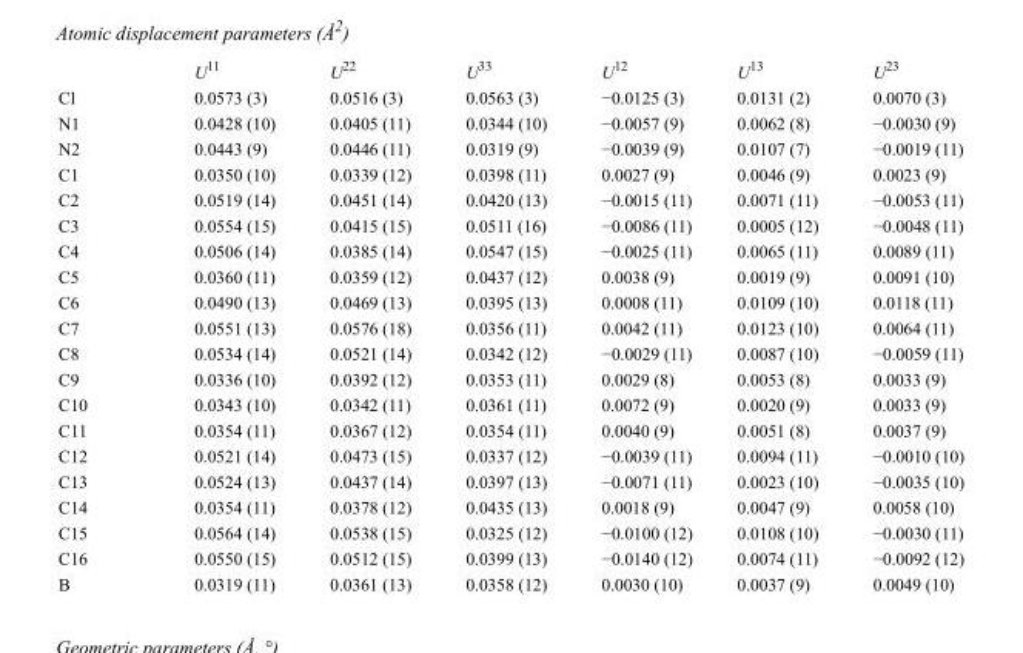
<table><thead><tr><td></td><td>U<sup>11</sup></td><td>U<sup>22</sup></td><td>U<sup>33</sup></td><td>U<sup>12</sup></td><td>U<sup>13</sup></td><td>U<sup>23</sup></td></tr></thead><tbody><tr><td>Cl</td><td>0.0573 (3)</td><td>0.0516 (3)</td><td>0.0563 (3)</td><td>−0.0125 (3)</td><td>0.0131 (2)</td><td>0.0070 (3)</td></tr><tr><td>N1</td><td>0.0428 (10)</td><td>0.0405 (11)</td><td>0.0344 (10)</td><td>−0.0057 (9)</td><td>0.0062 (8)</td><td>−0.0030 (9)</td></tr><tr><td>N2</td><td>0.0443 (9)</td><td>0.0446 (11)</td><td>0.0319 (9)</td><td>−0.0039 (9)</td><td>0.0107 (7)</td><td>−0.0019 (11)</td></tr><tr><td>C1</td><td>0.0350 (10)</td><td>0.0339 (12)</td><td>0.0398 (11)</td><td>0.0027 (9)</td><td>0.0046 (9)</td><td>0.0023 (9)</td></tr><tr><td>C2</td><td>0.0519 (14)</td><td>0.0451 (14)</td><td>0.0420 (13)</td><td>−0.0015 (11)</td><td>0.0071 (11)</td><td>−0.0053 (11)</td></tr><tr><td>C3</td><td>0.0554 (15)</td><td>0.0415 (15)</td><td>0.0511 (16)</td><td>−0.0086 (11)</td><td>0.0005 (12)</td><td>−0.0048 (11)</td></tr><tr><td>C4</td><td>0.0506 (14)</td><td>0.0385 (14)</td><td>0.0547 (15)</td><td>−0.0025 (11)</td><td>0.0065 (11)</td><td>0.0089 (11)</td></tr><tr><td>C5</td><td>0.0360 (11)</td><td>0.0359 (12)</td><td>0.0437 (12)</td><td>0.0038 (9)</td><td>0.0019 (9)</td><td>0.0091 (10)</td></tr><tr><td>C6</td><td>0.0490 (13)</td><td>0.0469 (13)</td><td>0.0395 (13)</td><td>0.0008 (11)</td><td>0.0109 (10)</td><td>0.0118 (11)</td></tr><tr><td>C7</td><td>0.0551 (13)</td><td>0.0576 (18)</td><td>0.0356 (11)</td><td>0.0042 (11)</td><td>0.0123 (10)</td><td>0.0064 (11)</td></tr><tr><td>C8</td><td>0.0534 (14)</td><td>0.0521 (14)</td><td>0.0342 (12)</td><td>−0.0029 (11)</td><td>0.0087 (10)</td><td>−0.0059 (11)</td></tr><tr><td>C9</td><td>0.0336 (10)</td><td>0.0392 (12)</td><td>0.0353 (11)</td><td>0.0029 (8)</td><td>0.0053 (8)</td><td>0.0033 (9)</td></tr><tr><td>C10</td><td>0.0343 (10)</td><td>0.0342 (11)</td><td>0.0361 (11)</td><td>0.0072 (9)</td><td>0.0020 (9)</td><td>0.0033 (9)</td></tr><tr><td>C11</td><td>0.0354 (11)</td><td>0.0367 (12)</td><td>0.0354 (11)</td><td>0.0040 (9)</td><td>0.0051 (8)</td><td>0.0037 (9)</td></tr><tr><td>C12</td><td>0.0521 (14)</td><td>0.0473 (15)</td><td>0.0337 (12)</td><td>−0.0039 (11)</td><td>0.0094 (11)</td><td>−0.0010 (10)</td></tr><tr><td>C13</td><td>0.0524 (13)</td><td>0.0437 (14)</td><td>0.0397 (13)</td><td>−0.0071 (11)</td><td>0.0023 (10)</td><td>−0.0035 (10)</td></tr><tr><td>C14</td><td>0.0354 (11)</td><td>0.0378 (12)</td><td>0.0435 (13)</td><td>0.0018 (9)</td><td>0.0047 (9)</td><td>0.0058 (10)</td></tr><tr><td>C15</td><td>0.0564 (14)</td><td>0.0538 (15)</td><td>0.0325 (12)</td><td>−0.0100 (12)</td><td>0.0108 (10)</td><td>−0.0030 (11)</td></tr><tr><td>C16</td><td>0.0550 (15)</td><td>0.0512 (15)</td><td>0.0399 (13)</td><td>−0.0140 (12)</td><td>0.0074 (11)</td><td>−0.0092 (12)</td></tr><tr><td>B</td><td>0.0319 (11)</td><td>0.0361 (13)</td><td>0.0358 (12)</td><td>0.0030 (10)</td><td>0.0037 (9)</td><td>0.0049 (10)</td></tr></tbody></table>